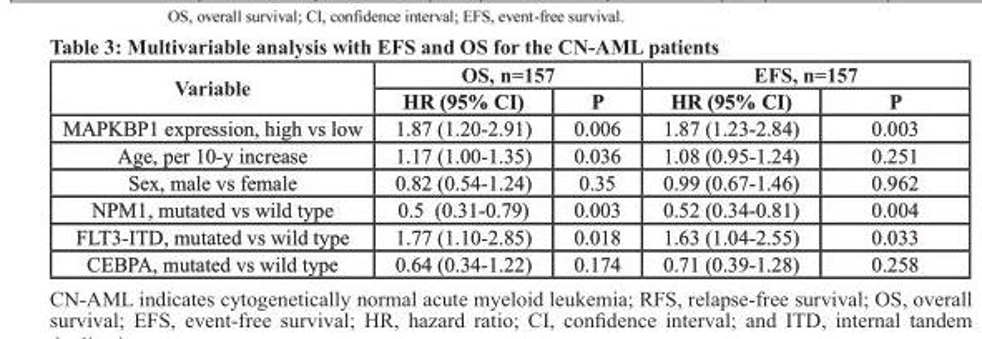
<table><thead><tr><td rowspan="2">Variable</td><td colspan="2">OS, n=157</td><td colspan="2">EFS, n=157</td></tr><tr><td>HR (95% CI)</td><td>P</td><td>HR (95% CI)</td><td>P</td></tr></thead><tbody><tr><td>MAPKBP1 expression, high vs low</td><td>1.87 (1.20-2.91)</td><td>0.006</td><td>1.87 (1.23-2.84)</td><td>0.003</td></tr><tr><td>Age, per 10-y increase</td><td>1.17 (1.00-1.35)</td><td>0.036</td><td>1.08 (0.95-1.24)</td><td>0.251</td></tr><tr><td>Sex, male vs female</td><td>0.82 (0.54-1.24)</td><td>0.35</td><td>0.99 (0.67-1.46)</td><td>0.962</td></tr><tr><td>NPM1, mutated vs wild type</td><td>0.5 (0.31-0.79)</td><td>0.003</td><td>0.52 (0.34-0.81)</td><td>0.004</td></tr><tr><td>FLT3-ITD, mutated vs wild type</td><td>1.77 (1.10-2.85)</td><td>0.018</td><td>1.63 (1.04-2.55)</td><td>0.033</td></tr><tr><td>CEBPA, mutated vs wild type</td><td>0.64 (0.34-1.22)</td><td>0.174</td><td>0.71 (0.39-1.28)</td><td>0.258</td></tr></tbody></table>